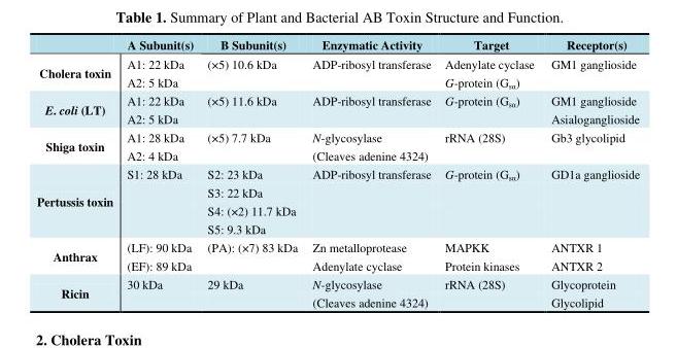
<table><thead><tr><td></td><td>A Subunit(s)</td><td>B Subunit(s)</td><td>Enzymatic Activity</td><td>Target</td><td>Receptor(s)</td></tr></thead><tbody><tr><td rowspan="2">Cholera toxin</td><td>A1: 22 kDa</td><td>(×5) 10.6 kDa</td><td>ADP-ribosyl transferase</td><td>Adenylate cyclase</td><td>GM1 ganglioside</td></tr><tr><td>A2: 5 kDa</td><td></td><td></td><td>G-protein (G<sub>sα</sub>)</td><td></td></tr><tr><td rowspan="2">E. coli (LT)</td><td>A1: 22 kDa</td><td>(×5) 11.6 kDa</td><td>ADP-ribosyl transferase</td><td>G-protein (G<sub>sα</sub>)</td><td>GM1 ganglioside</td></tr><tr><td>A2: 5 kDa</td><td></td><td></td><td></td><td>Asialoganglioside</td></tr><tr><td rowspan="2">Shiga toxin</td><td>A1: 28 kDa</td><td>(×5) 7.7 kDa</td><td>N-glycosylase</td><td>rRNA (28S)</td><td>Gb3 glycolipid</td></tr><tr><td>A2: 4 kDa</td><td></td><td>(Cleaves adenine 4324)</td><td></td><td></td></tr><tr><td rowspan="4">Pertussis toxin</td><td>S1: 28 kDa</td><td>S2: 23 kDa</td><td>ADP-ribosyl transferase</td><td>G-protein (G<sub>sα</sub>)</td><td>GD1a ganglioside</td></tr><tr><td></td><td>S3: 22 kDa</td><td></td><td></td><td></td></tr><tr><td></td><td>S4: (×2) 11.7 kDa</td><td></td><td></td><td></td></tr><tr><td></td><td>S5: 9.3 kDa</td><td></td><td></td><td></td></tr><tr><td rowspan="2">Anthrax</td><td>(LF): 90 kDa</td><td>(PA): (×7) 83 kDa</td><td>Zn metalloprotease</td><td>MAPKK</td><td>ANTXR 1</td></tr><tr><td>(EF): 89 kDa</td><td></td><td>Adenylate cyclase</td><td>Protein kinases</td><td>ANTXR 2</td></tr><tr><td rowspan="2">Ricin</td><td>30 kDa</td><td>29 kDa</td><td>N-glycosylase</td><td>rRNA (28S)</td><td>Glycoprotein</td></tr><tr><td></td><td></td><td>(Cleaves adenine 4324)</td><td></td><td>Glycolipid</td></tr></tbody></table>